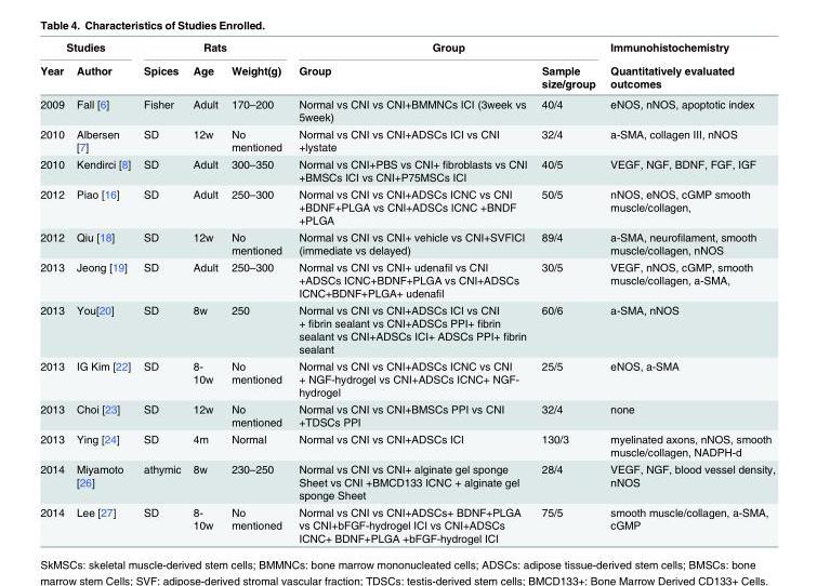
<table><thead><tr><td colspan="2">Studies</td><td colspan="3">Rats</td><td colspan="2">Group</td><td rowspan="2">Immunohistochemistry Quantitatively evaluated outcomes</td></tr><tr><td>Year</td><td>Author</td><td>Spices</td><td>Age</td><td>Weight(g)</td><td>Group</td><td>Sample size/group</td></tr></thead><tbody><tr><td>2009</td><td>Fall [6]</td><td>Fisher</td><td>Adult</td><td>170–200</td><td>Normal vs CNI vs CNI+BMMNCs ICI (3week vs 5week)</td><td>40/4</td><td>eNOS, nNOS, apoptotic index</td></tr><tr><td>2010</td><td>Albersen [7]</td><td>SD</td><td>12w</td><td>No mentioned</td><td>Normal vs CNI vs CNI+ADSCs ICI vs CNI +lystate</td><td>32/4</td><td>a-SMA, collagen III, nNOS</td></tr><tr><td>2010</td><td>Kendirci [8]</td><td>SD</td><td>Adult</td><td>300–350</td><td>Normal vs CNI+PBS vs CNI+ fibroblasts vs CNI +BMSCs ICI vs CNI+P75MSCs ICI</td><td>40/5</td><td>VEGF, NGF, BDNF, FGF, IGF</td></tr><tr><td>2012</td><td>Piao [16]</td><td>SD</td><td>Adult</td><td>250–300</td><td>Normal vs CNI vs CNI+ADSCs ICNC vs CNI +BDNF+PLGA vs CNI+ADSCs ICNC +BNDF +PLGA</td><td>50/5</td><td>nNOS, eNOS, cGMP smooth muscle/collagen,</td></tr><tr><td>2012</td><td>Qiu [18]</td><td>SD</td><td>12w</td><td>No mentioned</td><td>Normal vs CNI vs CNI+ vehicle vs CNI+SVFICI (immediate vs delayed)</td><td>89/4</td><td>a-SMA, neurofilament, smooth muscle/collagen, nNOS</td></tr><tr><td>2013</td><td>Jeong [19]</td><td>SD</td><td>Adult</td><td>250–300</td><td>Normal vs CNI vs CNI+ udenafil vs CNI +ADSCs ICNC+BDNF+PLGA vs CNI+ADSCs ICNC+BDNF+PLGA+ udenafil</td><td>30/5</td><td>VEGF, nNOS, cGMP, smooth muscle/collagen, a-SMA,</td></tr><tr><td>2013</td><td>You[20]</td><td>SD</td><td>8w</td><td>250</td><td>Normal vs CNI vs CNI+ADSCs ICI vs CNI + fibrin sealant vs CNI+ADSCs PPI+ fibrin sealant vs CNI+ADSCs ICI+ ADSCs PPI+ fibrin sealant</td><td>60/6</td><td>a-SMA, nNOS</td></tr><tr><td>2013</td><td>IG Kim [22]</td><td>SD</td><td>8- 10w</td><td>No mentioned</td><td>Normal vs CNI vs CNI+ADSCs ICNC vs CNI + NGF-hydrogel vs CNI+ADSCs ICNC+ NGF- hydrogel</td><td>25/5</td><td>eNOS, a-SMA</td></tr><tr><td>2013</td><td>Choi [23]</td><td>SD</td><td>12w</td><td>No mentioned</td><td>Normal vs CNI vs CNI+BMSCs PPI vs CNI +TDSCs PPI</td><td>32/4</td><td>none</td></tr><tr><td>2013</td><td>Ying [24]</td><td>SD</td><td>4m</td><td>Normal</td><td>Normal vs CNI vs CNI+ADSCs ICI</td><td>130/3</td><td>myelinated axons, nNOS, smooth muscle/collagen, NADPH-d</td></tr><tr><td>2014</td><td>Miyamoto [26]</td><td>athymic</td><td>8w</td><td>230–250</td><td>Normal vs CNI vs CNI+ alginate gel sponge Sheet vs CNI +BMCD133 ICNC + alginate gel sponge Sheet</td><td>28/4</td><td>VEGF, NGF, blood vessel density, nNOS</td></tr><tr><td>2014</td><td>Lee [27]</td><td>SD</td><td>8- 10w</td><td>No mentioned</td><td>Normal vs CNI vs CNI+ADSCs+ BDNF+PLGA vs CNI+bFGF-hydrogel ICI vs CNI+ADSCs ICNC+ BDNF+PLGA +bFGF-hydrogel ICI</td><td>75/5</td><td>smooth muscle/collagen, a-SMA, cGMP</td></tr></tbody></table>